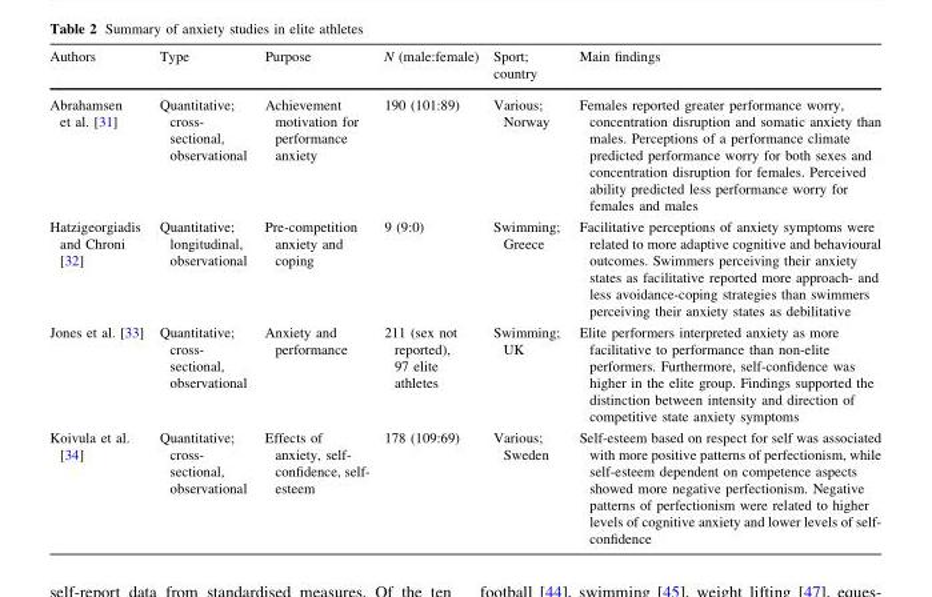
<table><thead><tr><td>Authors</td><td>Type</td><td>Purpose</td><td>N (male:female)</td><td>Sport; country</td><td>Main findings</td></tr></thead><tbody><tr><td>Abrahamsen et al. [31]</td><td>Quantitative; cross- sectional, observational</td><td>Achievement motivation for performance anxiety</td><td>190 (101:89)</td><td>Various; Norway</td><td>Females reported greater performance worry, concentration disruption and somatic anxiety than males. Perceptions of a performance climate predicted performance worry for both sexes and concentration disruption for females. Perceived ability predicted less performance worry for females and males</td></tr><tr><td>Hatzigeorgiadis and Chroni [32]</td><td>Quantitative; longitudinal, observational</td><td>Pre-competition anxiety and coping</td><td>9 (9:0)</td><td>Swimming; Greece</td><td>Facilitative perceptions of anxiety symptoms were related to more adaptive cognitive and behavioural outcomes. Swimmers perceiving their anxiety states as facilitative reported more approach- and less avoidance-coping strategies than swimmers perceiving their anxiety states as debilitative</td></tr><tr><td>Jones et al. [33]</td><td>Quantitative; cross- sectional, observational</td><td>Anxiety and performance</td><td>211 (sex not reported), 97 elite athletes</td><td>Swimming; UK</td><td>Elite performers interpreted anxiety as more facilitative to performance than non-elite performers. Furthermore, self-confidence was higher in the elite group. Findings supported the distinction between intensity and direction of competitive state anxiety symptoms</td></tr><tr><td>Koivula et al. [34]</td><td>Quantitative; cross- sectional, observational</td><td>Effects of anxiety, self- confidence, self- esteem</td><td>178 (109:69)</td><td>Various; Sweden</td><td>Self-esteem based on respect for self was associated with more positive patterns of perfectionism, while self-esteem dependent on competence aspects showed more negative perfectionism. Negative patterns of perfectionism were related to higher levels of cognitive anxiety and lower levels of self- confidence</td></tr></tbody></table>